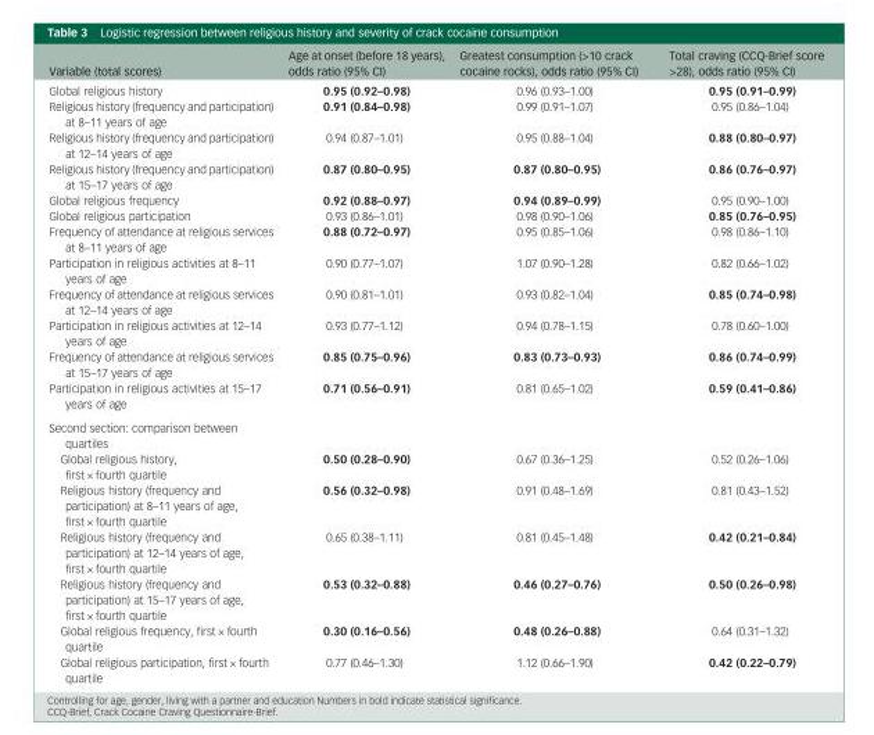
<table><thead><tr><td>Variable (total scores)</td><td>Age at onset (before 18 years), odds ratio (95% CI)</td><td>Greatest consumption (&gt;10 crack cocaine rocks), odds ratio (95% CI)</td><td>Total craving (CCQ-Brief score &gt;28), odds ratio (95% CI)</td></tr></thead><tbody><tr><td>Global religious history</td><td>0.95 (0.92–0.98)</td><td>0.96 (0.93–1.00)</td><td>0.95 (0.91–0.99)</td></tr><tr><td>Religious history (frequency and participation) at 8–11 years of age</td><td>0.91 (0.84–0.98)</td><td>0.99 (0.91–1.07)</td><td>0.95 (0.86–1.04)</td></tr><tr><td>Religious history (frequency and participation) at 12–14 years of age</td><td>0.94 (0.87–1.01)</td><td>0.95 (0.88–1.04)</td><td>0.88 (0.80–0.97)</td></tr><tr><td>Religious history (frequency and participation) at 15–17 years of age</td><td>0.87 (0.80–0.95)</td><td>0.87 (0.80–0.95)</td><td>0.86 (0.76–0.97)</td></tr><tr><td>Global religious frequency</td><td>0.92 (0.88–0.97)</td><td>0.94 (0.89–0.99)</td><td>0.95 (0.90–1.00)</td></tr><tr><td>Global religious participation</td><td>0.93 (0.86–1.01)</td><td>0.98 (0.90–1.06)</td><td>0.85 (0.76–0.95)</td></tr><tr><td>Frequency of attendance at religious services at 8–11 years of age</td><td>0.88 (0.72–0.97)</td><td>0.95 (0.85–1.06)</td><td>0.98 (0.86–1.10)</td></tr><tr><td>Participation in religious activities at 8–11 years of age</td><td>0.90 (0.77–1.07)</td><td>1.07 (0.90–1.28)</td><td>0.82 (0.66–1.02)</td></tr><tr><td>Frequency of attendance at religious services at 12–14 years of age</td><td>0.90 (0.81–1.01)</td><td>0.93 (0.82–1.04)</td><td>0.85 (0.74–0.98)</td></tr><tr><td>Participation in religious activities at 12–14 years of age</td><td>0.93 (0.77–1.12)</td><td>0.94 (0.78–1.15)</td><td>0.78 (0.60–1.00)</td></tr><tr><td>Frequency of attendance at religious services at 15–17 years of age</td><td>0.85 (0.75–0.96)</td><td>0.83 (0.73–0.93)</td><td>0.86 (0.74–0.99)</td></tr><tr><td>Participation in religious activities at 15–17 years of age</td><td>0.71 (0.56–0.91)</td><td>0.81 (0.65–1.02)</td><td>0.59 (0.41–0.86)</td></tr><tr><td colspan="4">Second section: comparison between quartiles</td></tr><tr><td>Global religious history, first × fourth quartile</td><td>0.50 (0.28–0.90)</td><td>0.67 (0.36–1.25)</td><td>0.52 (0.26–1.06)</td></tr><tr><td>Religious history (frequency and participation) at 8–11 years of age, first × fourth quartile</td><td>0.56 (0.32–0.98)</td><td>0.91 (0.48–1.69)</td><td>0.81 (0.43–1.52)</td></tr><tr><td>Religious history (frequency and participation) at 12–14 years of age, first × fourth quartile</td><td>0.65 (0.38–1.11)</td><td>0.81 (0.45–1.48)</td><td>0.42 (0.21–0.84)</td></tr><tr><td>Religious history (frequency and participation) at 15–17 years of age, first × fourth quartile</td><td>0.53 (0.32–0.88)</td><td>0.46 (0.27–0.76)</td><td>0.50 (0.26–0.98)</td></tr><tr><td>Global religious frequency, first × fourth quartile</td><td>0.30 (0.16–0.56)</td><td>0.48 (0.26–0.88)</td><td>0.64 (0.31–1.32)</td></tr><tr><td>Global religious participation, first × fourth quartile</td><td>0.77 (0.46–1.30)</td><td>1.12 (0.66–1.90)</td><td>0.42 (0.22–0.79)</td></tr></tbody></table>